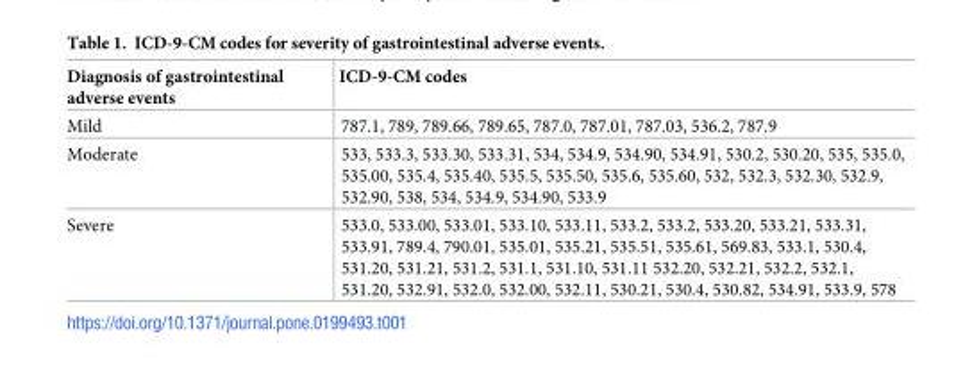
<table><thead><tr><td>Diagnosis of gastrointestinal adverse events</td><td>ICD-9-CM codes</td></tr></thead><tbody><tr><td>Mild</td><td>787.1, 789, 789.66, 789.65, 787.0, 787.01, 787.03, 536.2, 787.9</td></tr><tr><td>Moderate</td><td>533, 533.3, 533.30, 533.31, 534, 534.9, 534.90, 534.91, 530.2, 530.20, 535, 535.0, 535.00, 535.4, 535.40, 535.5, 535.50, 535.6, 535.60, 532, 532.3, 532.30, 532.9, 532.90, 538, 534, 534.9, 534.90, 533.9</td></tr><tr><td>Severe</td><td>533.0, 533.00, 533.01, 533.10, 533.11, 533.2, 533.2, 533.20, 533.21, 533.31, 533.91, 789.4, 790.01, 535.01, 535.21, 535.51, 535.61, 569.83, 533.1, 530.4, 531.20, 531.21, 531.2, 531.1, 531.10, 531.11 532.20, 532.21, 532.2, 532.1, 531.20, 532.91, 532.0, 532.00, 532.11, 530.21, 530.4, 530.82, 534.91, 533.9, 578</td></tr></tbody></table>